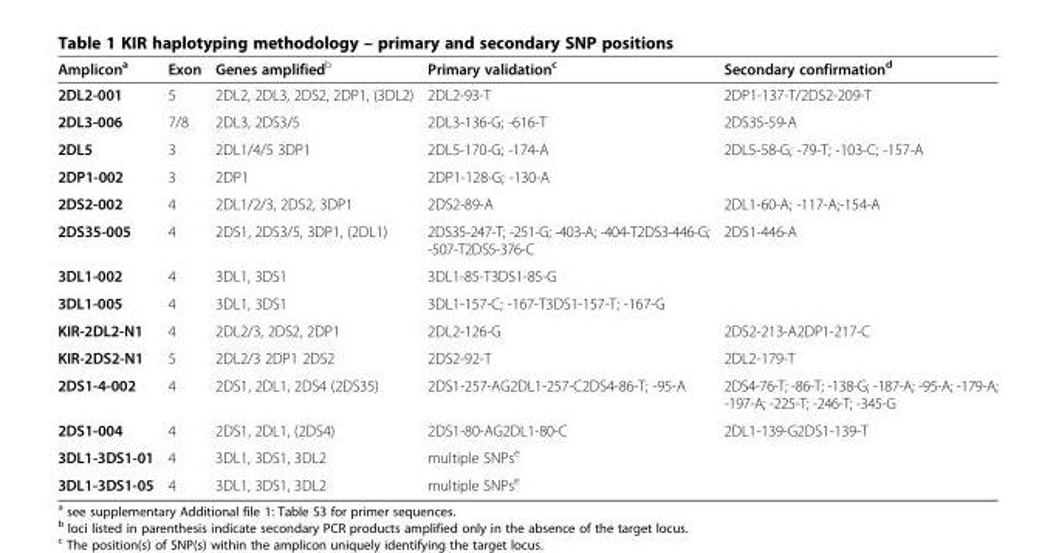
<table><thead><tr><td>Amplicon<sup>a</sup></td><td>Exon</td><td>Genes amplified<sup>b</sup></td><td>Primary validation<sup>c</sup></td><td>Secondary confirmation<sup>d</sup></td></tr></thead><tbody><tr><td>2DL2-001</td><td>5</td><td>2DL2, 2DL3, 2DS2, 2DP1, (3DL2)</td><td>2DL2-93-T</td><td>2DP1-137-T/2DS2-209-T</td></tr><tr><td>2DL3-006</td><td>7/8</td><td>2DL3, 2DS3/5</td><td>2DL3-136-G; -616-T</td><td>2DS35-59-A</td></tr><tr><td>2DL5</td><td>3</td><td>2DL1/4/5 3DP1</td><td>2DL5-170-G; -174-A</td><td>2DL5-58-G; -79-T; -103-C; -157-A</td></tr><tr><td>2DP1-002</td><td>3</td><td>2DP1</td><td>2DP1-128-G; -130-A</td><td></td></tr><tr><td>2DS2-002</td><td>4</td><td>2DL1/2/3, 2DS2, 3DP1</td><td>2DS2-89-A</td><td>2DL1-60-A; -117-A;-154-A</td></tr><tr><td>2DS35-005</td><td>4</td><td>2DS1, 2DS3/5, 3DP1, (2DL1)</td><td>2DS35-247-T; -251-G; -403-A; -404-T2DS3-446-G; -507-T2DS5-376-C</td><td>2DS1-446-A</td></tr><tr><td>3DL1-002</td><td>4</td><td>3DL1, 3DS1</td><td>3DL1-85-T3DS1-85-G</td><td></td></tr><tr><td>3DL1-005</td><td>4</td><td>3DL1, 3DS1</td><td>3DL1-157-C; -167-T3DS1-157-T; -167-G</td><td></td></tr><tr><td>KIR-2DL2-N1</td><td>4</td><td>2DL2/3, 2DS2, 2DP1</td><td>2DL2-126-G</td><td>2DS2-213-A2DP1-217-C</td></tr><tr><td>KIR-2DS2-N1</td><td>5</td><td>2DL2/3 2DP1 2DS2</td><td>2DS2-92-T</td><td>2DL2-179-T</td></tr><tr><td>2DS1-4-002</td><td>4</td><td>2DS1, 2DL1, 2DS4 (2DS35)</td><td>2DS1-257-AG2DL1-257-C2DS4-86-T; -95-A</td><td>2DS4-76-T; -86-T; -138-G; -187-A; -95-A; -179-A; -197-A; -225-T; -246-T; -345-G</td></tr><tr><td>2DS1-004</td><td>4</td><td>2DS1, 2DL1, (2DS4)</td><td>2DS1-80-AG2DL1-80-C</td><td>2DL1-139-G2DS1-139-T</td></tr><tr><td>3DL1-3DS1-01</td><td>4</td><td>3DL1, 3DS1, 3DL2</td><td>multiple SNPs<sup>e</sup></td><td></td></tr><tr><td>3DL1-3DS1-05</td><td>4</td><td>3DL1, 3DS1, 3DL2</td><td>multiple SNPs<sup>e</sup></td><td></td></tr></tbody></table>